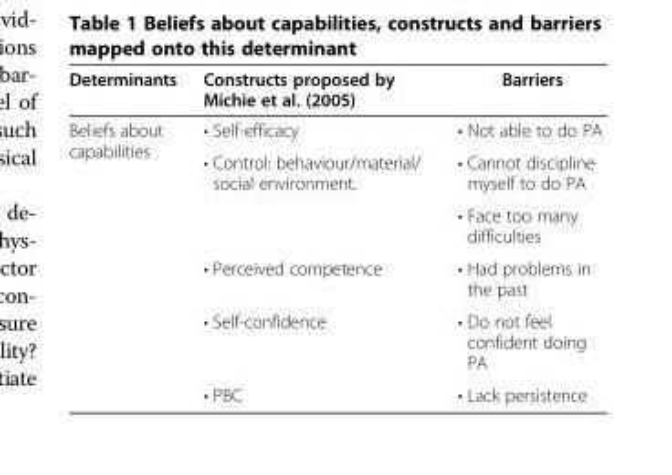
<table><thead><tr><td>Determinants</td><td>Constructs proposed by Michie et al. (2005)</td><td>Barriers</td></tr></thead><tbody><tr><td rowspan="6">Beliefs about capabilities</td><td>• Self-efficacy</td><td>• Not able to do PA</td></tr><tr><td rowspan="2">• Control: behaviour/material/ social environment.</td><td>• Cannot discipline myself to do PA</td></tr><tr><td>• Face too many difficulties</td></tr><tr><td>• Perceived competence</td><td>• Had problems in the past</td></tr><tr><td>• Self-confidence</td><td>• Do not feel confident doing PA</td></tr><tr><td>• PBC</td><td>• Lack persistence</td></tr></tbody></table>